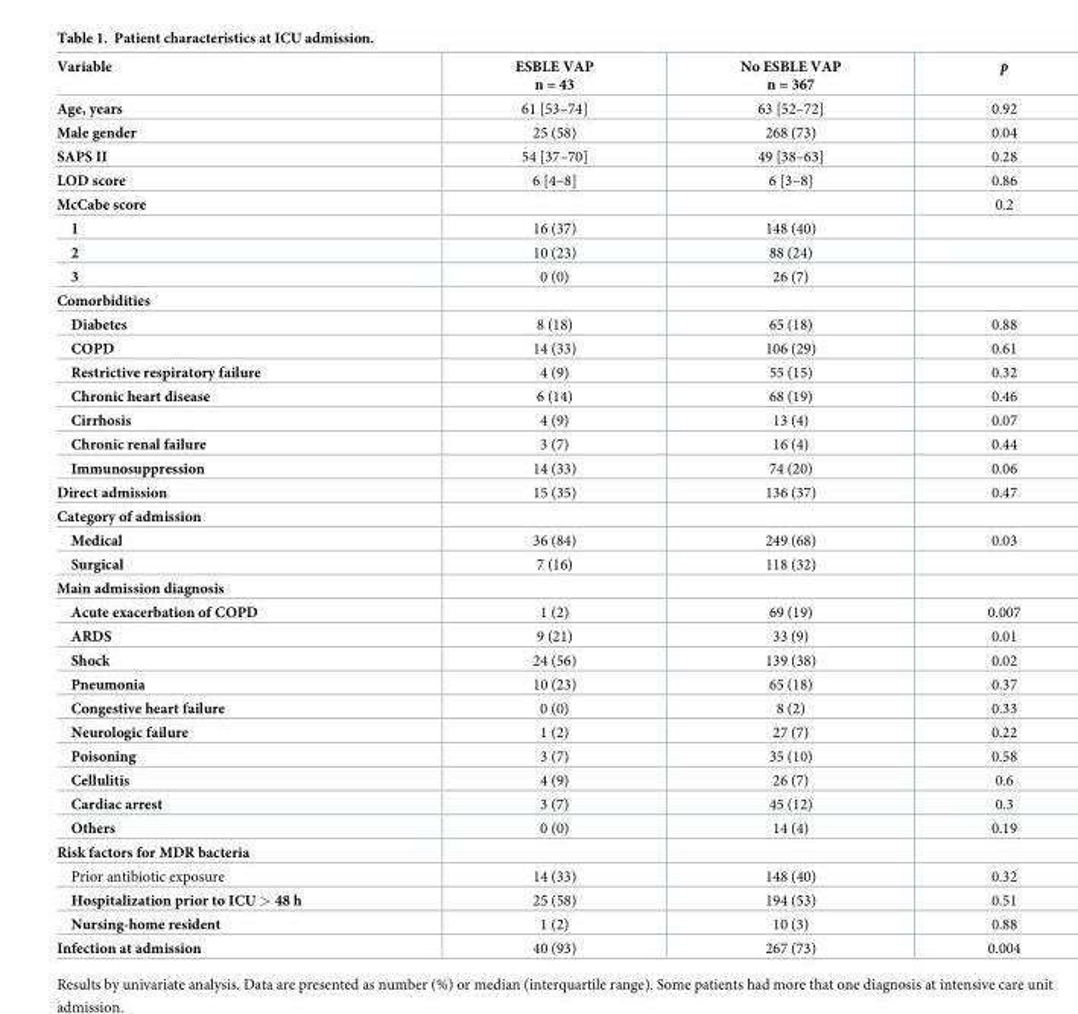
<table><thead><tr><td>Variable</td><td>ESBLE VAP n = 43</td><td>No ESBLE VAP n = 367</td><td>p</td></tr></thead><tbody><tr><td>Age, years</td><td>61 [53–74]</td><td>63 [52–72]</td><td>0.92</td></tr><tr><td>Male gender</td><td>25 (58)</td><td>268 (73)</td><td>0.04</td></tr><tr><td>SAPS II</td><td>54 [37–70]</td><td>49 [38–63]</td><td>0.28</td></tr><tr><td>LOD score</td><td>6 [4–8]</td><td>6 [3–8]</td><td>0.86</td></tr><tr><td>McCabe score</td><td></td><td></td><td>0.2</td></tr><tr><td>1</td><td>16 (37)</td><td>148 (40)</td><td></td></tr><tr><td>2</td><td>10 (23)</td><td>88 (24)</td><td></td></tr><tr><td>3</td><td>0 (0)</td><td>26 (7)</td><td></td></tr><tr><td colspan="4">Comorbidities</td></tr><tr><td>Diabetes</td><td>8 (18)</td><td>65 (18)</td><td>0.88</td></tr><tr><td>COPD</td><td>14 (33)</td><td>106 (29)</td><td>0.61</td></tr><tr><td>Restrictive respiratory failure</td><td>4 (9)</td><td>55 (15)</td><td>0.32</td></tr><tr><td>Chronic heart disease</td><td>6 (14)</td><td>68 (19)</td><td>0.46</td></tr><tr><td>Cirrhosis</td><td>4 (9)</td><td>13 (4)</td><td>0.07</td></tr><tr><td>Chronic renal failure</td><td>3 (7)</td><td>16 (4)</td><td>0.44</td></tr><tr><td>Immunosuppression</td><td>14 (33)</td><td>74 (20)</td><td>0.06</td></tr><tr><td>Direct admission</td><td>15 (35)</td><td>136 (37)</td><td>0.47</td></tr><tr><td colspan="4">Category of admission</td></tr><tr><td>Medical</td><td>36 (84)</td><td>249 (68)</td><td>0.03</td></tr><tr><td>Surgical</td><td>7 (16)</td><td>118 (32)</td><td></td></tr><tr><td colspan="4">Main admission diagnosis</td></tr><tr><td>Acute exacerbation of COPD</td><td>1 (2)</td><td>69 (19)</td><td>0.007</td></tr><tr><td>ARDS</td><td>9 (21)</td><td>33 (9)</td><td>0.01</td></tr><tr><td>Shock</td><td>24 (56)</td><td>139 (38)</td><td>0.02</td></tr><tr><td>Pneumonia</td><td>10 (23)</td><td>65 (18)</td><td>0.37</td></tr><tr><td>Congestive heart failure</td><td>0 (0)</td><td>8 (2)</td><td>0.33</td></tr><tr><td>Neurologic failure</td><td>1 (2)</td><td>27 (7)</td><td>0.22</td></tr><tr><td>Poisoning</td><td>3 (7)</td><td>35 (10)</td><td>0.58</td></tr><tr><td>Cellulitis</td><td>4 (9)</td><td>26 (7)</td><td>0.6</td></tr><tr><td>Cardiac arrest</td><td>3 (7)</td><td>45 (12)</td><td>0.3</td></tr><tr><td>Others</td><td>0 (0)</td><td>14 (4)</td><td>0.19</td></tr><tr><td colspan="4">Risk factors for MDR bacteria</td></tr><tr><td>Prior antibiotic exposure</td><td>14 (33)</td><td>148 (40)</td><td>0.32</td></tr><tr><td>Hospitalization prior to ICU &gt; 48 h</td><td>25 (58)</td><td>194 (53)</td><td>0.51</td></tr><tr><td>Nursing-home resident</td><td>1 (2)</td><td>10 (3)</td><td>0.88</td></tr><tr><td>Infection at admission</td><td>40 (93)</td><td>267 (73)</td><td>0.004</td></tr></tbody></table>